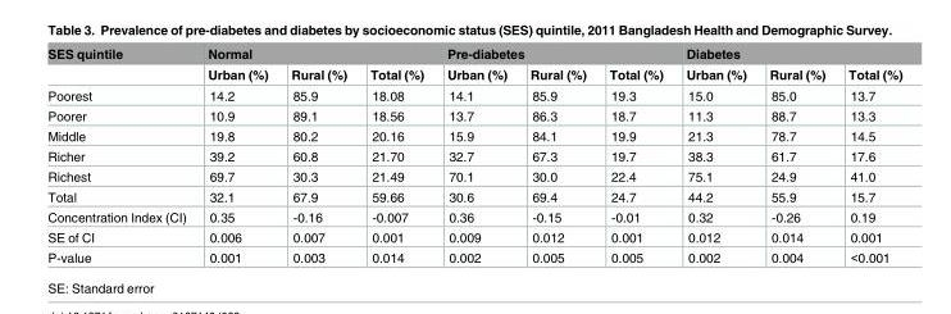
<table><thead><tr><td rowspan="2">SES quintile</td><td colspan="3">Normal</td><td colspan="3">Pre-diabetes</td><td colspan="3">Diabetes</td></tr><tr><td>Urban (%)</td><td>Rural (%)</td><td>Total (%)</td><td>Urban (%)</td><td>Rural (%)</td><td>Total (%)</td><td>Urban (%)</td><td>Rural (%)</td><td>Total (%)</td></tr></thead><tbody><tr><td>Poorest</td><td>14.2</td><td>85.9</td><td>18.08</td><td>14.1</td><td>85.9</td><td>19.3</td><td>15.0</td><td>85.0</td><td>13.7</td></tr><tr><td>Poorer</td><td>10.9</td><td>89.1</td><td>18.56</td><td>13.7</td><td>86.3</td><td>18.7</td><td>11.3</td><td>88.7</td><td>13.3</td></tr><tr><td>Middle</td><td>19.8</td><td>80.2</td><td>20.16</td><td>15.9</td><td>84.1</td><td>19.9</td><td>21.3</td><td>78.7</td><td>14.5</td></tr><tr><td>Richer</td><td>39.2</td><td>60.8</td><td>21.70</td><td>32.7</td><td>67.3</td><td>19.7</td><td>38.3</td><td>61.7</td><td>17.6</td></tr><tr><td>Richest</td><td>69.7</td><td>30.3</td><td>21.49</td><td>70.1</td><td>30.0</td><td>22.4</td><td>75.1</td><td>24.9</td><td>41.0</td></tr><tr><td>Total</td><td>32.1</td><td>67.9</td><td>59.66</td><td>30.6</td><td>69.4</td><td>24.7</td><td>44.2</td><td>55.9</td><td>15.7</td></tr><tr><td>Concentration Index (CI)</td><td>0.35</td><td>-0.16</td><td>-0.007</td><td>0.36</td><td>-0.15</td><td>-0.01</td><td>0.32</td><td>-0.26</td><td>0.19</td></tr><tr><td>SE of CI</td><td>0.006</td><td>0.007</td><td>0.001</td><td>0.009</td><td>0.012</td><td>0.001</td><td>0.012</td><td>0.014</td><td>0.001</td></tr><tr><td>P-value</td><td>0.001</td><td>0.003</td><td>0.014</td><td>0.002</td><td>0.005</td><td>0.005</td><td>0.002</td><td>0.004</td><td>&lt;0.001</td></tr></tbody></table>